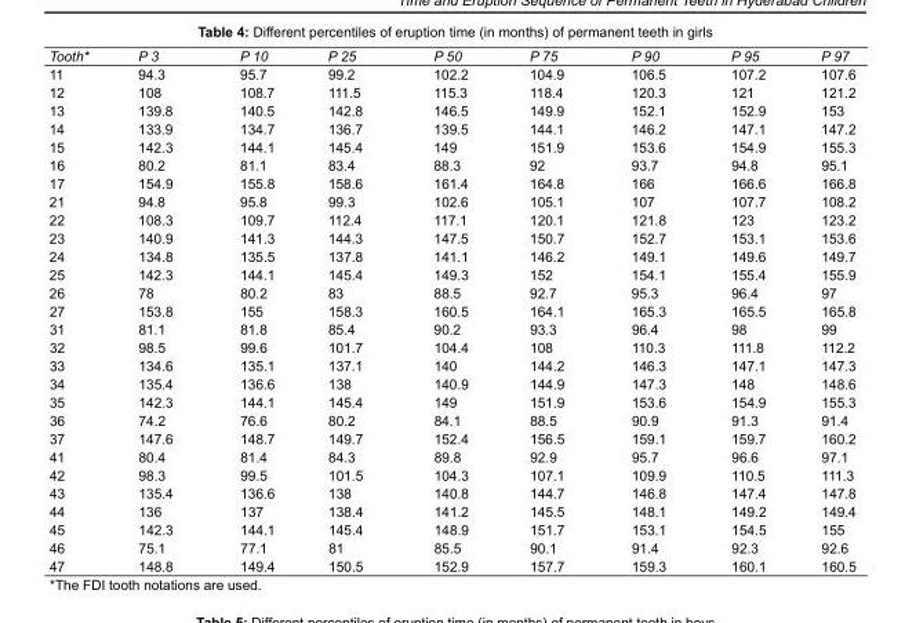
<table><tbody><tr><td>Tooth*</td><td>P 3</td><td>P 10</td><td>P 25</td><td>P 50</td><td>P 75</td><td>P 90</td><td>P 95</td><td>P 97</td></tr><tr><td>11</td><td>94.3</td><td>95.7</td><td>99.2</td><td>102.2</td><td>104.9</td><td>106.5</td><td>107.2</td><td>107.6</td></tr><tr><td>12</td><td>108</td><td>108.7</td><td>111.5</td><td>115.3</td><td>118.4</td><td>120.3</td><td>121</td><td>121.2</td></tr><tr><td>13</td><td>139.8</td><td>140.5</td><td>142.8</td><td>146.5</td><td>149.9</td><td>152.1</td><td>152.9</td><td>153</td></tr><tr><td>14</td><td>133.9</td><td>134.7</td><td>136.7</td><td>139.5</td><td>144.1</td><td>146.2</td><td>147.1</td><td>147.2</td></tr><tr><td>15</td><td>142.3</td><td>144.1</td><td>145.4</td><td>149</td><td>151.9</td><td>153.6</td><td>154.9</td><td>155.3</td></tr><tr><td>16</td><td>80.2</td><td>81.1</td><td>83.4</td><td>88.3</td><td>92</td><td>93.7</td><td>94.8</td><td>95.1</td></tr><tr><td>17</td><td>154.9</td><td>155.8</td><td>158.6</td><td>161.4</td><td>164.8</td><td>166</td><td>166.6</td><td>166.8</td></tr><tr><td>21</td><td>94.8</td><td>95.8</td><td>99.3</td><td>102.6</td><td>105.1</td><td>107</td><td>107.7</td><td>108.2</td></tr><tr><td>22</td><td>108.3</td><td>109.7</td><td>112.4</td><td>117.1</td><td>120.1</td><td>121.8</td><td>123</td><td>123.2</td></tr><tr><td>23</td><td>140.9</td><td>141.3</td><td>144.3</td><td>147.5</td><td>150.7</td><td>152.7</td><td>153.1</td><td>153.6</td></tr><tr><td>24</td><td>134.8</td><td>135.5</td><td>137.8</td><td>141.1</td><td>146.2</td><td>149.1</td><td>149.6</td><td>149.7</td></tr><tr><td>25</td><td>142.3</td><td>144.1</td><td>145.4</td><td>149.3</td><td>152</td><td>154.1</td><td>155.4</td><td>155.9</td></tr><tr><td>26</td><td>78</td><td>80.2</td><td>83</td><td>88.5</td><td>92.7</td><td>95.3</td><td>96.4</td><td>97</td></tr><tr><td>27</td><td>153.8</td><td>155</td><td>158.3</td><td>160.5</td><td>164.1</td><td>165.3</td><td>165.5</td><td>165.8</td></tr><tr><td>31</td><td>81.1</td><td>81.8</td><td>85.4</td><td>90.2</td><td>93.3</td><td>96.4</td><td>98</td><td>99</td></tr><tr><td>32</td><td>98.5</td><td>99.6</td><td>101.7</td><td>104.4</td><td>108</td><td>110.3</td><td>111.8</td><td>112.2</td></tr><tr><td>33</td><td>134.6</td><td>135.1</td><td>137.1</td><td>140</td><td>144.2</td><td>146.3</td><td>147.1</td><td>147.3</td></tr><tr><td>34</td><td>135.4</td><td>136.6</td><td>138</td><td>140.9</td><td>144.9</td><td>147.3</td><td>148</td><td>148.6</td></tr><tr><td>35</td><td>142.3</td><td>144.1</td><td>145.4</td><td>149</td><td>151.9</td><td>153.6</td><td>154.9</td><td>155.3</td></tr><tr><td>36</td><td>74.2</td><td>76.6</td><td>80.2</td><td>84.1</td><td>88.5</td><td>90.9</td><td>91.3</td><td>91.4</td></tr><tr><td>37</td><td>147.6</td><td>148.7</td><td>149.7</td><td>152.4</td><td>156.5</td><td>159.1</td><td>159.7</td><td>160.2</td></tr><tr><td>41</td><td>80.4</td><td>81.4</td><td>84.3</td><td>89.8</td><td>92.9</td><td>95.7</td><td>96.6</td><td>97.1</td></tr><tr><td>42</td><td>98.3</td><td>99.5</td><td>101.5</td><td>104.3</td><td>107.1</td><td>109.9</td><td>110.5</td><td>111.3</td></tr><tr><td>43</td><td>135.4</td><td>136.6</td><td>138</td><td>140.8</td><td>144.7</td><td>146.8</td><td>147.4</td><td>147.8</td></tr><tr><td>44</td><td>136</td><td>137</td><td>138.4</td><td>141.2</td><td>145.5</td><td>148.1</td><td>149.2</td><td>149.4</td></tr><tr><td>45</td><td>142.3</td><td>144.1</td><td>145.4</td><td>148.9</td><td>151.7</td><td>153.1</td><td>154.5</td><td>155</td></tr><tr><td>46</td><td>75.1</td><td>77.1</td><td>81</td><td>85.5</td><td>90.1</td><td>91.4</td><td>92.3</td><td>92.6</td></tr><tr><td>47</td><td>148.8</td><td>149.4</td><td>150.5</td><td>152.9</td><td>157.7</td><td>159.3</td><td>160.1</td><td>160.5</td></tr></tbody></table>